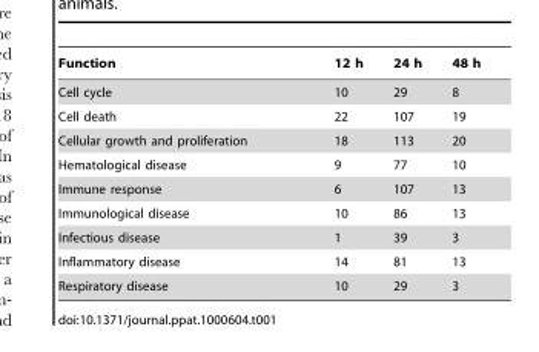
<table><thead><tr><td>Function</td><td>12 h</td><td>24 h</td><td>48 h</td></tr></thead><tbody><tr><td>Cell cycle</td><td>10</td><td>29</td><td>8</td></tr><tr><td>Cell death</td><td>22</td><td>107</td><td>19</td></tr><tr><td>Cellular growth and proliferation</td><td>18</td><td>113</td><td>20</td></tr><tr><td>Hematological disease</td><td>9</td><td>77</td><td>10</td></tr><tr><td>Immune response</td><td>6</td><td>107</td><td>13</td></tr><tr><td>Immunological disease</td><td>10</td><td>86</td><td>13</td></tr><tr><td>Infectious disease</td><td>1</td><td>39</td><td>3</td></tr><tr><td>Inflammatory disease</td><td>14</td><td>81</td><td>13</td></tr><tr><td>Respiratory disease</td><td>10</td><td>29</td><td>3</td></tr></tbody></table>